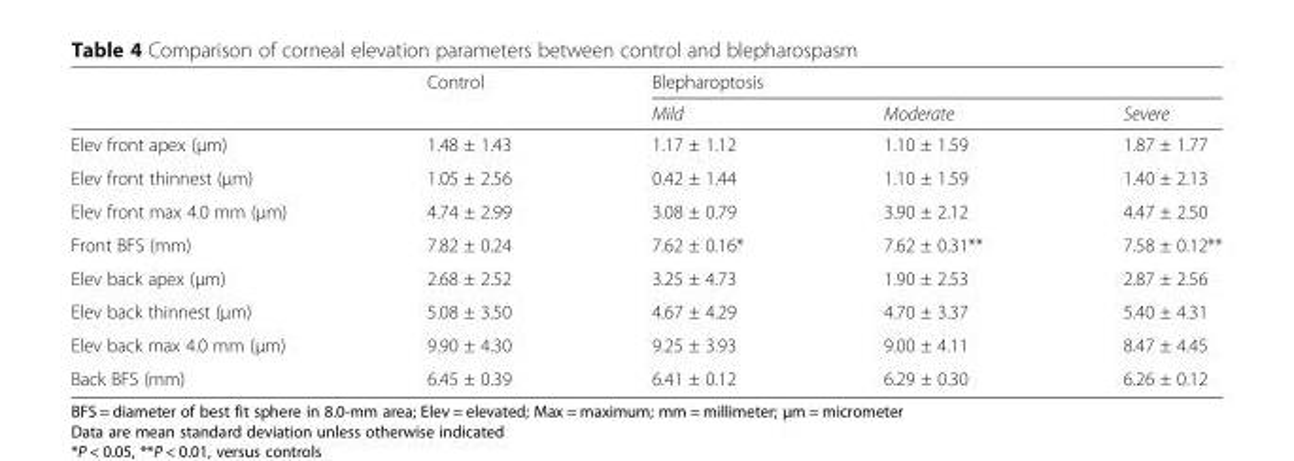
<table><thead><tr><td rowspan="2"></td><td rowspan="2">Control</td><td colspan="3">Blepharoptosis</td></tr><tr><td>Mild</td><td>Moderate</td><td>Severe</td></tr></thead><tbody><tr><td>Elev front apex (μm)</td><td>1.48 ± 1.43</td><td>1.17 ± 1.12</td><td>1.10 ± 1.59</td><td>1.87 ± 1.77</td></tr><tr><td>Elev front thinnest (μm)</td><td>1.05 ± 2.56</td><td>0.42 ± 1.44</td><td>1.10 ± 1.59</td><td>1.40 ± 2.13</td></tr><tr><td>Elev front max 4.0 mm (μm)</td><td>4.74 ± 2.99</td><td>3.08 ± 0.79</td><td>3.90 ± 2.12</td><td>4.47 ± 2.50</td></tr><tr><td>Front BFS (mm)</td><td>7.82 ± 0.24</td><td>7.62 ± 0.16*</td><td>7.62 ± 0.31**</td><td>7.58 ± 0.12**</td></tr><tr><td>Elev back apex (μm)</td><td>2.68 ± 2.52</td><td>3.25 ± 4.73</td><td>1.90 ± 2.53</td><td>2.87 ± 2.56</td></tr><tr><td>Elev back thinnest (μm)</td><td>5.08 ± 3.50</td><td>4.67 ± 4.29</td><td>4.70 ± 3.37</td><td>5.40 ± 4.31</td></tr><tr><td>Elev back max 4.0 mm (μm)</td><td>9.90 ± 4.30</td><td>9.25 ± 3.93</td><td>9.00 ± 4.11</td><td>8.47 ± 4.45</td></tr><tr><td>Back BFS (mm)</td><td>6.45 ± 0.39</td><td>6.41 ± 0.12</td><td>6.29 ± 0.30</td><td>6.26 ± 0.12</td></tr></tbody></table>